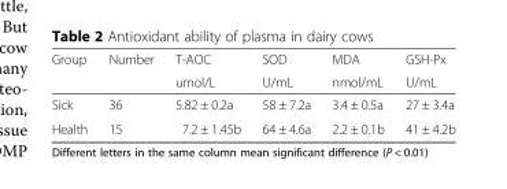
<table><thead><tr><td rowspan="2">Group</td><td rowspan="2">Number</td><td rowspan="2">T-AOC umol/L</td><td rowspan="2">SOD U/mL</td><td rowspan="2">MDA nmol/mL</td><td rowspan="2">GSH-Px U/mL</td></tr><tr></tr></thead><tbody><tr><td>Sick</td><td>36</td><td>5.82 ± 0.2a</td><td>58 ± 7.2a</td><td>3.4 ± 0.5a</td><td>27 ± 3.4a</td></tr><tr><td>Health</td><td>15</td><td>7.2 ± 1.45b</td><td>64 ± 4.6a</td><td>2.2 ± 0.1b</td><td>41 ± 4.2b</td></tr></tbody></table>